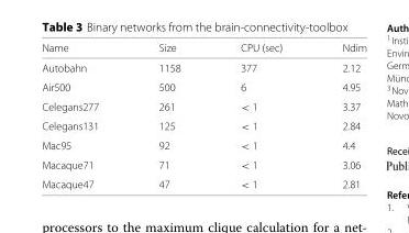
<table><thead><tr><td>Name</td><td>Size</td><td>CPU (sec)</td><td>Ndim</td></tr></thead><tbody><tr><td>Autobahn</td><td>1158</td><td>377</td><td>2.12</td></tr><tr><td>Air500</td><td>500</td><td>6</td><td>4.95</td></tr><tr><td>Celegans277</td><td>261</td><td>&lt; 1</td><td>3.37</td></tr><tr><td>Celegans131</td><td>125</td><td>&lt; 1</td><td>2.84</td></tr><tr><td>Mac95</td><td>92</td><td>&lt; 1</td><td>4.4</td></tr><tr><td>Macaque71</td><td>71</td><td>&lt; 1</td><td>3.06</td></tr><tr><td>Macaque47</td><td>47</td><td>&lt; 1</td><td>2.81</td></tr></tbody></table>